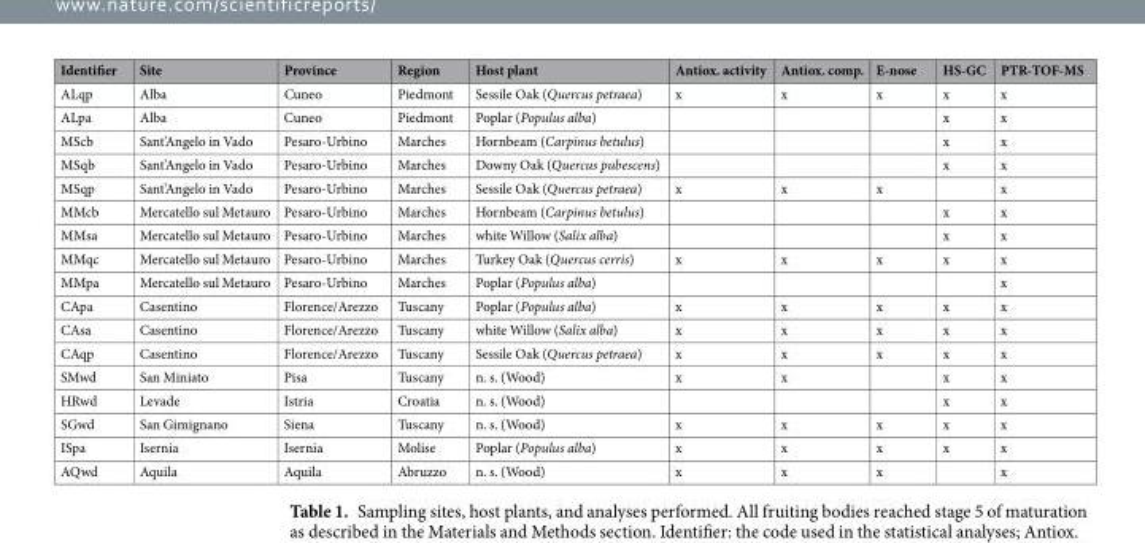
<table><thead><tr><td>Identifier</td><td>Site</td><td>Province</td><td>Region</td><td>Host plant</td><td>Antiox. activity</td><td>Antiox. comp.</td><td>E-nose</td><td>HS-GC</td><td>PTR-TOF-MS</td></tr></thead><tbody><tr><td>ALqp</td><td>Alba</td><td>Cuneo</td><td>Piedmont</td><td>Sessile Oak (Quercus petraea)</td><td>x</td><td>x</td><td>x</td><td>x</td><td>x</td></tr><tr><td>ALpa</td><td>Alba</td><td>Cuneo</td><td>Piedmont</td><td>Poplar (Populus alba)</td><td></td><td></td><td></td><td>x</td><td>x</td></tr><tr><td>MScb</td><td>Sant’Angelo in Vado</td><td>Pesaro-Urbino</td><td>Marches</td><td>Hornbeam (Carpinus betulus)</td><td></td><td></td><td></td><td>x</td><td>x</td></tr><tr><td>MSqb</td><td>Sant’Angelo in Vado</td><td>Pesaro-Urbino</td><td>Marches</td><td>Downy Oak (Quercus pubescens)</td><td></td><td></td><td></td><td>x</td><td>x</td></tr><tr><td>MSqp</td><td>Sant’Angelo in Vado</td><td>Pesaro-Urbino</td><td>Marches</td><td>Sessile Oak (Quercus petraea)</td><td>x</td><td>x</td><td>x</td><td></td><td>x</td></tr><tr><td>MMcb</td><td>Mercatello sul Metauro</td><td>Pesaro-Urbino</td><td>Marches</td><td>Hornbeam (Carpinus betulus)</td><td></td><td></td><td></td><td>x</td><td>x</td></tr><tr><td>MMsa</td><td>Mercatello sul Metauro</td><td>Pesaro-Urbino</td><td>Marches</td><td>white Willow (Salix alba)</td><td></td><td></td><td></td><td>x</td><td>x</td></tr><tr><td>MMqc</td><td>Mercatello sul Metauro</td><td>Pesaro-Urbino</td><td>Marches</td><td>Turkey Oak (Quercus cerris)</td><td>x</td><td>x</td><td>x</td><td>x</td><td>x</td></tr><tr><td>MMpa</td><td>Mercatello sul Metauro</td><td>Pesaro-Urbino</td><td>Marches</td><td>Poplar (Populus alba)</td><td></td><td></td><td></td><td></td><td>x</td></tr><tr><td>CApa</td><td>Casentino</td><td>Florence/Arezzo</td><td>Tuscany</td><td>Poplar (Populus alba)</td><td>x</td><td>x</td><td>x</td><td>x</td><td>x</td></tr><tr><td>CAsa</td><td>Casentino</td><td>Florence/Arezzo</td><td>Tuscany</td><td>white Willow (Salix alba)</td><td>x</td><td>x</td><td>x</td><td>x</td><td>x</td></tr><tr><td>CAqp</td><td>Casentino</td><td>Florence/Arezzo</td><td>Tuscany</td><td>Sessile Oak (Quercus petraea)</td><td>x</td><td>x</td><td>x</td><td>x</td><td>x</td></tr><tr><td>SMwd</td><td>San Miniato</td><td>Pisa</td><td>Tuscany</td><td>n. s. (Wood)</td><td>x</td><td>x</td><td></td><td>x</td><td>x</td></tr><tr><td>HRwd</td><td>Levade</td><td>Istria</td><td>Croatia</td><td>n. s. (Wood)</td><td></td><td></td><td></td><td>x</td><td>x</td></tr><tr><td>SGwd</td><td>San Gimignano</td><td>Siena</td><td>Tuscany</td><td>n. s. (Wood)</td><td>x</td><td>x</td><td>x</td><td>x</td><td>x</td></tr><tr><td>ISpa</td><td>Isernia</td><td>Isernia</td><td>Molise</td><td>Poplar (Populus alba)</td><td>x</td><td>x</td><td>x</td><td>x</td><td>x</td></tr><tr><td>AQwd</td><td>Aquila</td><td>Aquila</td><td>Abruzzo</td><td>n. s. (Wood)</td><td>x</td><td>x</td><td>x</td><td></td><td>x</td></tr></tbody></table>